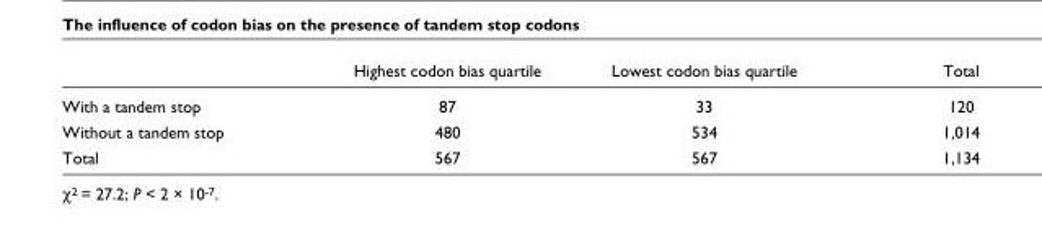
<table><thead><tr><td></td><td>Highest codon bias quartile</td><td>Lowest codon bias quartile</td><td>Total</td></tr></thead><tbody><tr><td>With a tandem stop</td><td>87</td><td>33</td><td>120</td></tr><tr><td>Without a tandem stop</td><td>480</td><td>534</td><td>1,014</td></tr><tr><td>Total</td><td>567</td><td>567</td><td>1,134</td></tr></tbody></table>